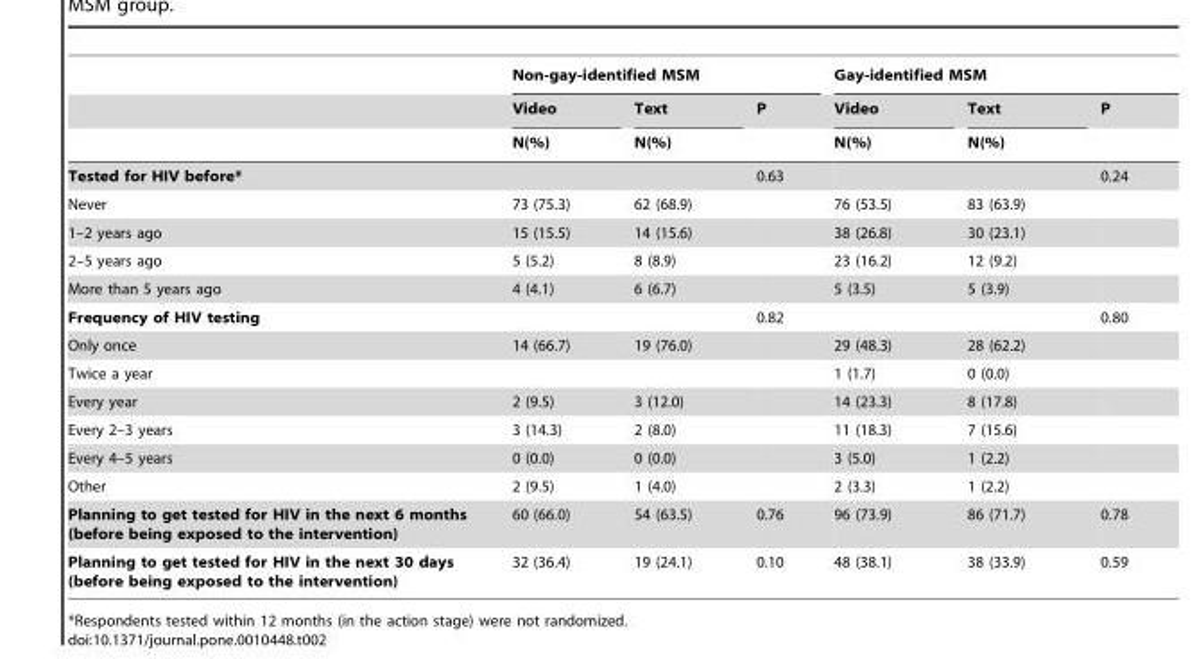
<table><thead><tr><td rowspan="3"></td><td colspan="3">Non-gay-identified MSM</td><td colspan="3">Gay-identified MSM</td></tr><tr><td rowspan="2">Video N(%)</td><td rowspan="2">Text N(%)</td><td rowspan="2">P</td><td rowspan="2">Video N(%)</td><td rowspan="2">Text N(%)</td><td rowspan="2">P</td></tr><tr></tr></thead><tbody><tr><td>Tested for HIV before*</td><td></td><td></td><td>0.63</td><td></td><td></td><td>0.24</td></tr><tr><td>Never</td><td>73 (75.3)</td><td>62 (68.9)</td><td></td><td>76 (53.5)</td><td>83 (63.9)</td><td></td></tr><tr><td>1–2 years ago</td><td>15 (15.5)</td><td>14 (15.6)</td><td></td><td>38 (26.8)</td><td>30 (23.1)</td><td></td></tr><tr><td>2–5 years ago</td><td>5 (5.2)</td><td>8 (8.9)</td><td></td><td>23 (16.2)</td><td>12 (9.2)</td><td></td></tr><tr><td>More than 5 years ago</td><td>4 (4.1)</td><td>6 (6.7)</td><td></td><td>5 (3.5)</td><td>5 (3.9)</td><td></td></tr><tr><td>Frequency of HIV testing</td><td></td><td></td><td>0.82</td><td></td><td></td><td>0.80</td></tr><tr><td>Only once</td><td>14 (66.7)</td><td>19 (76.0)</td><td></td><td>29 (48.3)</td><td>28 (62.2)</td><td></td></tr><tr><td>Twice a year</td><td></td><td></td><td></td><td>1 (1.7)</td><td>0 (0.0)</td><td></td></tr><tr><td>Every year</td><td>2 (9.5)</td><td>3 (12.0)</td><td></td><td>14 (23.3)</td><td>8 (17.8)</td><td></td></tr><tr><td>Every 2–3 years</td><td>3 (14.3)</td><td>2 (8.0)</td><td></td><td>11 (18.3)</td><td>7 (15.6)</td><td></td></tr><tr><td>Every 4–5 years</td><td>0 (0.0)</td><td>0 (0.0)</td><td></td><td>3 (5.0)</td><td>1 (2.2)</td><td></td></tr><tr><td>Other</td><td>2 (9.5)</td><td>1 (4.0)</td><td></td><td>2 (3.3)</td><td>1 (2.2)</td><td></td></tr><tr><td>Planning to get tested for HIV in the next 6 months (before being exposed to the intervention)</td><td>60 (66.0)</td><td>54 (63.5)</td><td>0.76</td><td>96 (73.9)</td><td>86 (71.7)</td><td>0.78</td></tr><tr><td>Planning to get tested for HIV in the next 30 days (before being exposed to the intervention)</td><td>32 (36.4)</td><td>19 (24.1)</td><td>0.10</td><td>48 (38.1)</td><td>38 (33.9)</td><td>0.59</td></tr></tbody></table>